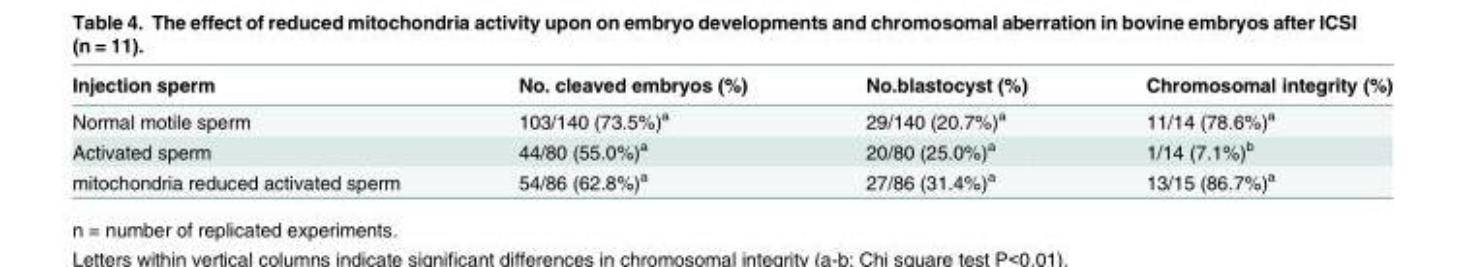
<table><thead><tr><td>Injection sperm</td><td>No. cleaved embryos (%)</td><td>No.blastocyst (%)</td><td>Chromosomal integrity (%)</td></tr></thead><tbody><tr><td>Normal motile sperm</td><td>103/140 (73.5%)<sup>a</sup></td><td>29/140 (20.7%)<sup>a</sup></td><td>11/14 (78.6%)<sup>a</sup></td></tr><tr><td>Activated sperm</td><td>44/80 (55.0%)<sup>a</sup></td><td>20/80 (25.0%)<sup>a</sup></td><td>1/14 (7.1%)<sup>b</sup></td></tr><tr><td>mitochondria reduced activated sperm</td><td>54/86 (62.8%)<sup>a</sup></td><td>27/86 (31.4%)<sup>a</sup></td><td>13/15 (86.7%)<sup>a</sup></td></tr></tbody></table>